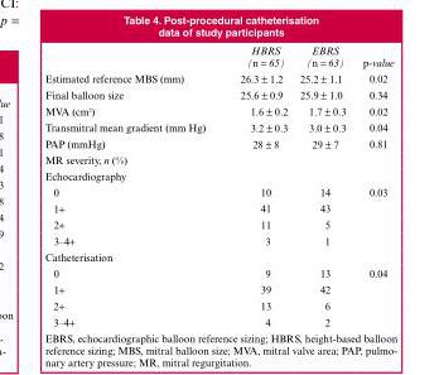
<table><thead><tr><td></td><td>HBRS (n = 65)</td><td>EBRS (n = 63)</td><td>p-value</td></tr></thead><tbody><tr><td>Estimated reference MBS (mm)</td><td>26.3 ± 1.2</td><td>25.2 ± 1.1</td><td>0.02</td></tr><tr><td>Final balloon size</td><td>25.6 ± 0.9</td><td>25.9 ± 1.0</td><td>0.34</td></tr><tr><td>MVA (cm<sup>2</sup>)</td><td>1.6 ± 0.2</td><td>1.7 ± 0.3</td><td>0.02</td></tr><tr><td>Transmitral mean gradient (mm Hg)</td><td>3.2 ± 0.3</td><td>3.0 ± 0.3</td><td>0.04</td></tr><tr><td>PAP (mmHg)</td><td>28 ± 8</td><td>29 ± 7</td><td>0.81</td></tr><tr><td colspan="4">MR severity, n (%)</td></tr><tr><td colspan="4">Echocardiography</td></tr><tr><td>0</td><td>10</td><td>14</td><td>0.03</td></tr><tr><td>1+</td><td>41</td><td>43</td><td></td></tr><tr><td>2+</td><td>11</td><td>5</td><td></td></tr><tr><td>3–4+</td><td>3</td><td>1</td><td></td></tr><tr><td colspan="4">Catheterisation</td></tr><tr><td>0</td><td>9</td><td>13</td><td>0.04</td></tr><tr><td>1+</td><td>39</td><td>42</td><td></td></tr><tr><td>2+</td><td>13</td><td>6</td><td></td></tr><tr><td>3–4+</td><td>4</td><td>2</td><td></td></tr></tbody></table>